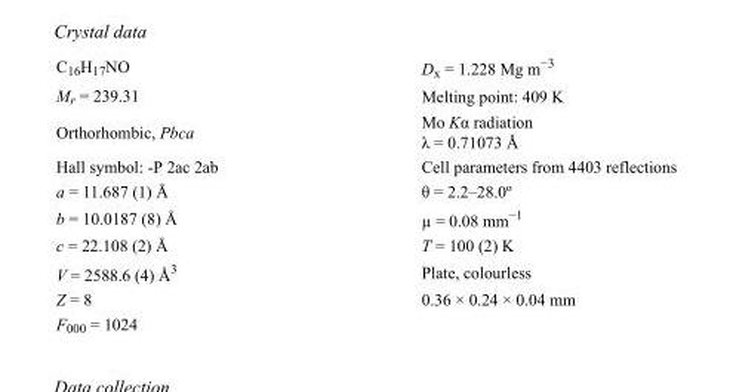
<table><tbody><tr><td>C<sub>16</sub>H<sub>17</sub>NO</td><td>D<sub>x</sub> = 1.228 Mg m<sup>−3</sup></td></tr><tr><td>M<sub>r</sub> = 239.31</td><td>Melting point: 409 K</td></tr><tr><td>Orthorhombic, Pbca</td><td>Mo Kα radiation λ = 0.71073 Å</td></tr><tr><td>Hall symbol: -P 2ac 2ab</td><td>Cell parameters from 4403 reflections</td></tr><tr><td>a = 11.687 (1) Å</td><td>θ = 2.2–28.0º</td></tr><tr><td>b = 10.0187 (8) Å</td><td>µ = 0.08 mm<sup>−1</sup></td></tr><tr><td>c = 22.108 (2) Å</td><td>T = 100 (2) K</td></tr><tr><td>V = 2588.6 (4) Å<sup>3</sup></td><td>Plate, colourless</td></tr><tr><td>Z = 8</td><td>0.36 × 0.24 × 0.04 mm</td></tr><tr><td>F<sub>000</sub> = 1024</td><td></td></tr></tbody></table>